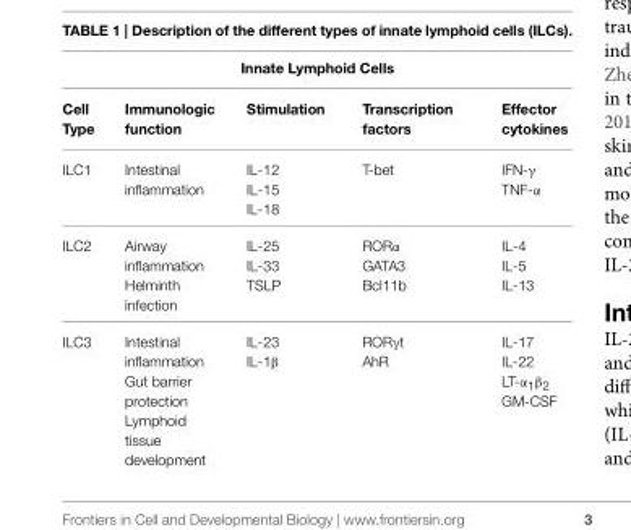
<table><thead><tr><td colspan="5">Innate Lymphoid Cells</td></tr><tr><td>Cell Type</td><td>Immunologic function</td><td>Stimulation</td><td>Transcription factors</td><td>Effector cytokines</td></tr></thead><tbody><tr><td>ILC1</td><td>Intestinal inflammation</td><td>IL-12 IL-15 IL-18</td><td>T-bet</td><td>IFN-γ TNF-α</td></tr><tr><td>ILC2</td><td>Airway inflammation Helminth infection</td><td>IL-25 IL-33 TSLP</td><td>RORα GATA3 Bcl11b</td><td>IL-4 IL-5 IL-13</td></tr><tr><td>ILC3</td><td>Intestinal inflammation Gut barrier protection Lymphoid tissue development</td><td>IL-23 IL-1β</td><td>RORγt AhR</td><td>IL-17 IL-22 LT-α<sub>1</sub>β<sub>2</sub> GM-CSF</td></tr></tbody></table>